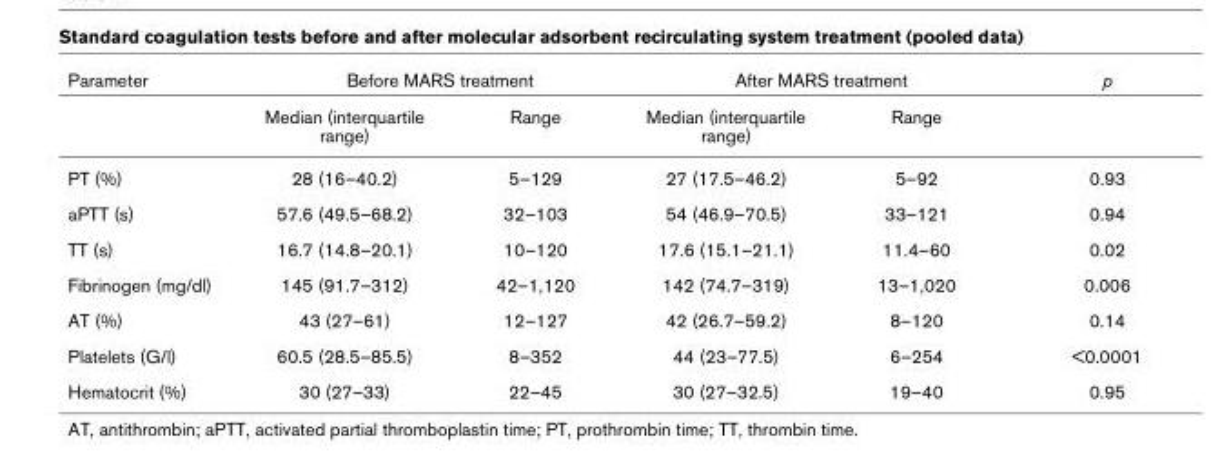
<table><thead><tr><td rowspan="2">Parameter</td><td colspan="2">Before MARS treatment</td><td colspan="2">After MARS treatment</td><td rowspan="2">p</td></tr><tr><td>Median (interquartile range)</td><td>Range</td><td>Median (interquartile range)</td><td>Range</td></tr></thead><tbody><tr><td>PT (%)</td><td>28 (16–40.2)</td><td>5–129</td><td>27 (17.5–46.2)</td><td>5–92</td><td>0.93</td></tr><tr><td>aPTT (s)</td><td>57.6 (49.5–68.2)</td><td>32–103</td><td>54 (46.9–70.5)</td><td>33–121</td><td>0.94</td></tr><tr><td>TT (s)</td><td>16.7 (14.8–20.1)</td><td>10–120</td><td>17.6 (15.1–21.1)</td><td>11.4–60</td><td>0.02</td></tr><tr><td>Fibrinogen (mg/dl)</td><td>145 (91.7–312)</td><td>42–1,120</td><td>142 (74.7–319)</td><td>13–1,020</td><td>0.006</td></tr><tr><td>AT (%)</td><td>43 (27–61)</td><td>12–127</td><td>42 (26.7–59.2)</td><td>8–120</td><td>0.14</td></tr><tr><td>Platelets (G/l)</td><td>60.5 (28.5–85.5)</td><td>8–352</td><td>44 (23–77.5)</td><td>6–254</td><td>&lt;0.0001</td></tr><tr><td>Hematocrit (%)</td><td>30 (27–33)</td><td>22–45</td><td>30 (27–32.5)</td><td>19–40</td><td>0.95</td></tr></tbody></table>